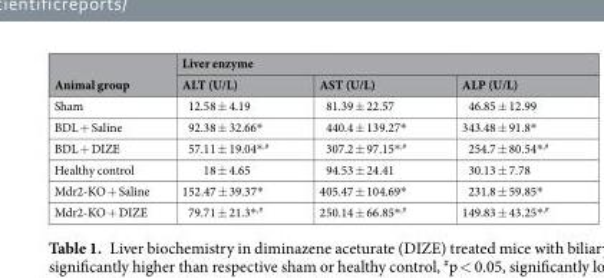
<table><thead><tr><td rowspan="2">Animal group</td><td colspan="3">Liver enzyme</td></tr><tr><td>ALT (U/L)</td><td>AST (U/L)</td><td>ALP (U/L)</td></tr></thead><tbody><tr><td>Sham</td><td>12.58 ± 4.19</td><td>81.39 ± 22.57</td><td>46.85 ± 12.99</td></tr><tr><td>BDL + Saline</td><td>92.38 ± 32.66*</td><td>440.4 ± 139.27*</td><td>343.48 ± 91.8*</td></tr><tr><td>BDL + DIZE</td><td>57.11 ± 19.04*<sup>,#</sup></td><td>307.2 ± 97.15*<sup>,#</sup></td><td>254.7 ± 80.54*<sup>,#</sup></td></tr><tr><td>Healthy control</td><td>18 ± 4.65</td><td>94.53 ± 24.41</td><td>30.13 ± 7.78</td></tr><tr><td>Mdr2-KO + Saline</td><td>152.47 ± 39.37*</td><td>405.47 ± 104.69*</td><td>231.8 ± 59.85*</td></tr><tr><td>Mdr2-KO + DIZE</td><td>79.71 ± 21.3*<sup>,#</sup></td><td>250.14 ± 66.85*<sup>,#</sup></td><td>149.83 ± 43.25*<sup>,#</sup></td></tr></tbody></table>